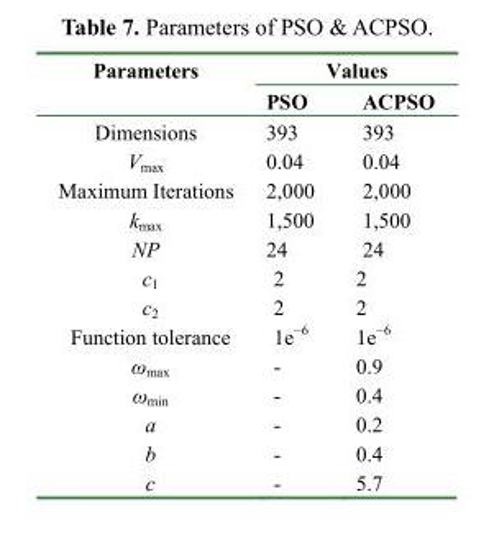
<table><thead><tr><td rowspan="2">Parameters</td><td colspan="2">Values</td></tr><tr><td>PSO</td><td>ACPSO</td></tr></thead><tbody><tr><td>Dimensions</td><td>393</td><td>393</td></tr><tr><td>V<sub>max</sub></td><td>0.04</td><td>0.04</td></tr><tr><td>Maximum Iterations</td><td>2,000</td><td>2,000</td></tr><tr><td>k<sub>max</sub></td><td>1,500</td><td>1,500</td></tr><tr><td>NP</td><td>24</td><td>24</td></tr><tr><td>c<sub>1</sub></td><td>2</td><td>2</td></tr><tr><td>c<sub>2</sub></td><td>2</td><td>2</td></tr><tr><td>Function tolerance</td><td>1e<sup>−6</sup></td><td>1e<sup>−6</sup></td></tr><tr><td>ω<sub>max</sub></td><td>-</td><td>0.9</td></tr><tr><td>ω<sub>min</sub></td><td>-</td><td>0.4</td></tr><tr><td>a</td><td>-</td><td>0.2</td></tr><tr><td>b</td><td>-</td><td>0.4</td></tr><tr><td>c</td><td>-</td><td>5.7</td></tr></tbody></table>